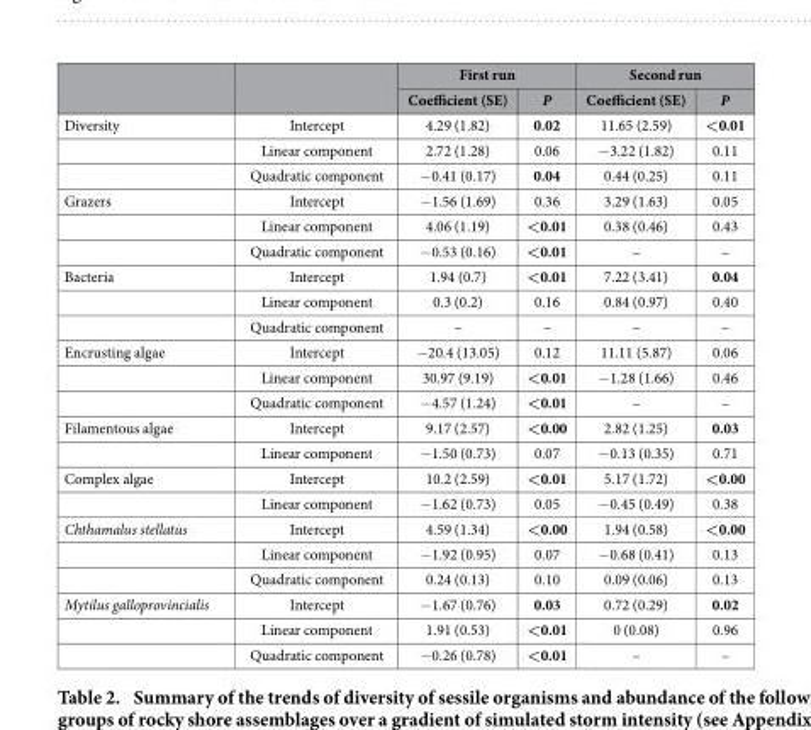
<table><thead><tr><td rowspan="2"></td><td rowspan="2"></td><td colspan="2">First run</td><td colspan="2">Second run</td></tr><tr><td>Coefficient (SE)</td><td>P</td><td>Coefficient (SE)</td><td>P</td></tr></thead><tbody><tr><td rowspan="3">Diversity</td><td>Intercept</td><td>4.29 (1.82)</td><td>0.02</td><td>11.65 (2.59)</td><td>&lt;0.01</td></tr><tr><td>Linear component</td><td>2.72 (1.28)</td><td>0.06</td><td>− 3.22 (1.82)</td><td>0.11</td></tr><tr><td>Quadratic component</td><td>− 0.41 (0.17)</td><td>0.04</td><td>0.44 (0.25)</td><td>0.11</td></tr><tr><td rowspan="3">Grazers</td><td>Intercept</td><td>− 1.56 (1.69)</td><td>0.36</td><td>3.29 (1.63)</td><td>0.05</td></tr><tr><td>Linear component</td><td>4.06 (1.19)</td><td>&lt;0.01</td><td>0.38 (0.46)</td><td>0.43</td></tr><tr><td>Quadratic component</td><td>− 0.53 (0.16)</td><td>&lt;0.01</td><td>–</td><td>–</td></tr><tr><td rowspan="3">Bacteria</td><td>Intercept</td><td>1.94 (0.7)</td><td>&lt;0.01</td><td>7.22 (3.41)</td><td>0.04</td></tr><tr><td>Linear component</td><td>0.3 (0.2)</td><td>0.16</td><td>0.84 (0.97)</td><td>0.40</td></tr><tr><td>Quadratic component</td><td>–</td><td>–</td><td>–</td><td>–</td></tr><tr><td rowspan="3">Encrusting algae</td><td>Intercept</td><td>− 20.4 (13.05)</td><td>0.12</td><td>11.11 (5.87)</td><td>0.06</td></tr><tr><td>Linear component</td><td>30.97 (9.19)</td><td>&lt;0.01</td><td>− 1.28 (1.66)</td><td>0.46</td></tr><tr><td>Quadratic component</td><td>− 4.57 (1.24)</td><td>&lt;0.01</td><td>–</td><td>–</td></tr><tr><td rowspan="2">Filamentous algae</td><td>Intercept</td><td>9.17 (2.57)</td><td>&lt;0.00</td><td>2.82 (1.25)</td><td>0.03</td></tr><tr><td>Linear component</td><td>− 1.50 (0.73)</td><td>0.07</td><td>− 0.13 (0.35)</td><td>0.71</td></tr><tr><td rowspan="2">Complex algae</td><td>Intercept</td><td>10.2 (2.59)</td><td>&lt;0.01</td><td>5.17 (1.72)</td><td>&lt;0.00</td></tr><tr><td>Linear component</td><td>− 1.62 (0.73)</td><td>0.05</td><td>− 0.45 (0.49)</td><td>0.38</td></tr><tr><td rowspan="3">Chthamalus stellatus</td><td>Intercept</td><td>4.59 (1.34)</td><td>&lt;0.00</td><td>1.94 (0.58)</td><td>&lt;0.00</td></tr><tr><td>Linear component</td><td>− 1.92 (0.95)</td><td>0.07</td><td>− 0.68 (0.41)</td><td>0.13</td></tr><tr><td>Quadratic component</td><td>0.24 (0.13)</td><td>0.10</td><td>0.09 (0.06)</td><td>0.13</td></tr><tr><td rowspan="3">Mytilus galloprovincialis</td><td>Intercept</td><td>− 1.67 (0.76)</td><td>0.03</td><td>0.72 (0.29)</td><td>0.02</td></tr><tr><td>Linear component</td><td>1.91 (0.53)</td><td>&lt;0.01</td><td>0 (0.08)</td><td>0.96</td></tr><tr><td>Quadratic component</td><td>− 0.26 (0.78)</td><td>&lt;0.01</td><td>–</td><td>–</td></tr></tbody></table>